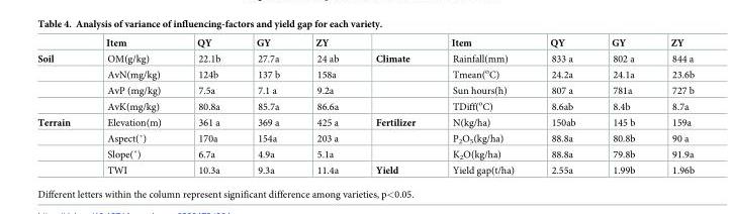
<table><thead><tr><td></td><td>Item</td><td>QY</td><td>GY</td><td>ZY</td><td></td><td>Item</td><td>QY</td><td>GY</td><td>ZY</td></tr></thead><tbody><tr><td rowspan="4">Soil</td><td>OM(g/kg)</td><td>22.1b</td><td>27.7a</td><td>24 ab</td><td>Climate</td><td>Rainfall(mm)</td><td>833 a</td><td>802 a</td><td>844 a</td></tr><tr><td>AvN(mg/kg)</td><td>124b</td><td>137 b</td><td>158a</td><td></td><td>Tmean(<sup>o</sup>C)</td><td>24.2a</td><td>24.1a</td><td>23.6b</td></tr><tr><td>AvP (mg/kg)</td><td>7.5a</td><td>7.1 a</td><td>9.2a</td><td></td><td>Sun hours(h)</td><td>807 a</td><td>781a</td><td>727 b</td></tr><tr><td>AvK(mg/kg)</td><td>80.8a</td><td>85.7a</td><td>86.6a</td><td></td><td>TDiff(<sup>o</sup>C)</td><td>8.6ab</td><td>8.4b</td><td>8.7a</td></tr><tr><td rowspan="4">Terrain</td><td>Elevation(m)</td><td>361 a</td><td>369 a</td><td>425 a</td><td>Fertilizer</td><td>N(kg/ha)</td><td>150ab</td><td>145 b</td><td>159a</td></tr><tr><td>Aspect(˚)</td><td>170a</td><td>154a</td><td>203 a</td><td></td><td>P<sub>2</sub>O<sub>5</sub>(kg/ha)</td><td>88.8a</td><td>80.8b</td><td>90 a</td></tr><tr><td>Slope(˚)</td><td>6.7a</td><td>4.9a</td><td>5.1a</td><td></td><td>K<sub>2</sub>O(kg/ha)</td><td>88.8a</td><td>79.8b</td><td>91.9a</td></tr><tr><td>TWI</td><td>10.3a</td><td>9.3a</td><td>11.4a</td><td>Yield</td><td>Yield gap(t/ha)</td><td>2.55a</td><td>1.99b</td><td>1.96b</td></tr></tbody></table>